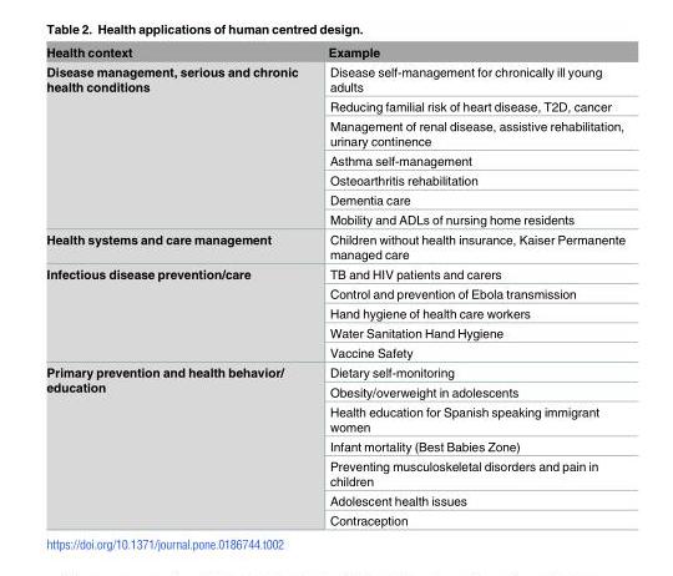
<table><thead><tr><td>Health context</td><td>Example</td></tr></thead><tbody><tr><td rowspan="7">Disease management, serious and chronic health conditions</td><td>Disease self-management for chronically ill young adults</td></tr><tr><td>Reducing familial risk of heart disease, T2D, cancer</td></tr><tr><td>Management of renal disease, assistive rehabilitation, urinary continence</td></tr><tr><td>Asthma self-management</td></tr><tr><td>Osteoarthritis rehabilitation</td></tr><tr><td>Dementia care</td></tr><tr><td>Mobility and ADLs of nursing home residents</td></tr><tr><td>Health systems and care management</td><td>Children without health insurance, Kaiser Permanente managed care</td></tr><tr><td rowspan="5">Infectious disease prevention/care</td><td>TB and HIV patients and carers</td></tr><tr><td>Control and prevention of Ebola transmission</td></tr><tr><td>Hand hygiene of health care workers</td></tr><tr><td>Water Sanitation Hand Hygiene</td></tr><tr><td>Vaccine Safety</td></tr><tr><td rowspan="7">Primary prevention and health behavior/ education</td><td>Dietary self-monitoring</td></tr><tr><td>Obesity/overweight in adolescents</td></tr><tr><td>Health education for Spanish speaking immigrant women</td></tr><tr><td>Infant mortality (Best Babies Zone)</td></tr><tr><td>Preventing musculoskeletal disorders and pain in children</td></tr><tr><td>Adolescent health issues</td></tr><tr><td>Contraception</td></tr></tbody></table>